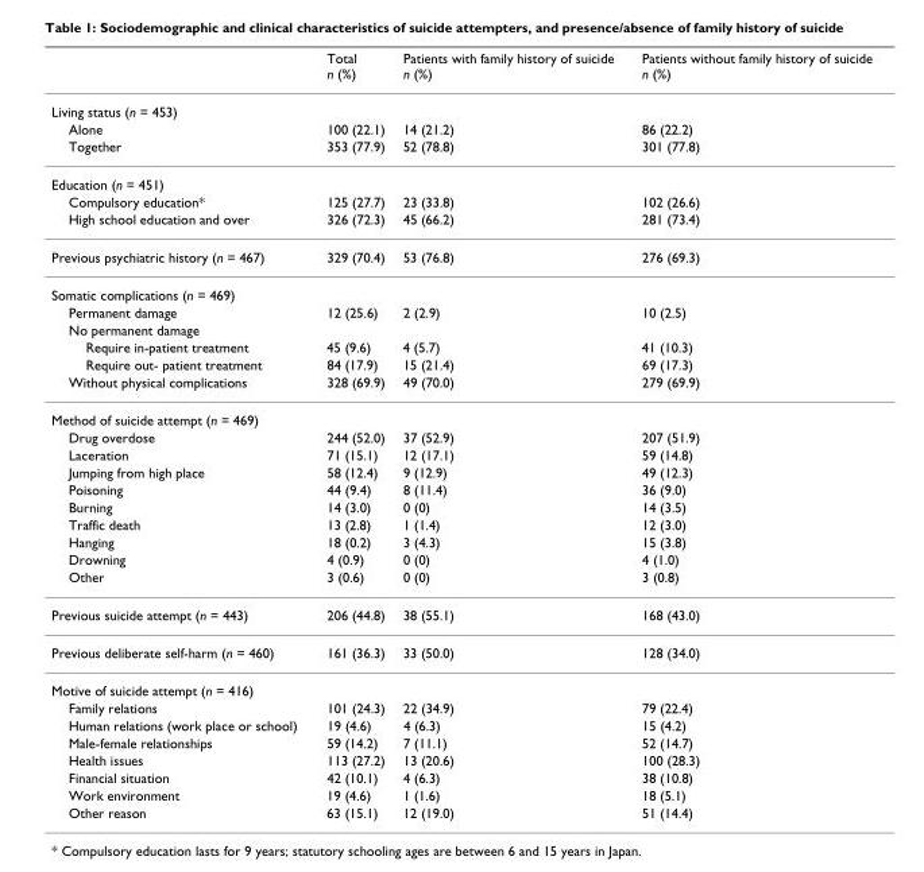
<table><thead><tr><td></td><td>Total n (%)</td><td>Patients with family history of suicide n (%)</td><td>Patients without family history of suicide n (%)</td></tr></thead><tbody><tr><td colspan="4">Living status (n = 453)</td></tr><tr><td>Alone</td><td>100 (22.1)</td><td>14 (21.2)</td><td>86 (22.2)</td></tr><tr><td>Together</td><td>353 (77.9)</td><td>52 (78.8)</td><td>301 (77.8)</td></tr><tr><td colspan="4">Education (n = 451)</td></tr><tr><td>Compulsory education*</td><td>125 (27.7)</td><td>23 (33.8)</td><td>102 (26.6)</td></tr><tr><td>High school education and over</td><td>326 (72.3)</td><td>45 (66.2)</td><td>281 (73.4)</td></tr><tr><td>Previous psychiatric history (n = 467)</td><td>329 (70.4)</td><td>53 (76.8)</td><td>276 (69.3)</td></tr><tr><td colspan="4">Somatic complications (n = 469)</td></tr><tr><td>Permanent damage</td><td>12 (25.6)</td><td>2 (2.9)</td><td>10 (2.5)</td></tr><tr><td colspan="4">No permanent damage</td></tr><tr><td>Require in-patient treatment</td><td>45 (9.6)</td><td>4 (5.7)</td><td>41 (10.3)</td></tr><tr><td>Require out- patient treatment</td><td>84 (17.9)</td><td>15 (21.4)</td><td>69 (17.3)</td></tr><tr><td>Without physical complications</td><td>328 (69.9)</td><td>49 (70.0)</td><td>279 (69.9)</td></tr><tr><td colspan="4">Method of suicide attempt (n = 469)</td></tr><tr><td>Drug overdose</td><td>244 (52.0)</td><td>37 (52.9)</td><td>207 (51.9)</td></tr><tr><td>Laceration</td><td>71 (15.1)</td><td>12 (17.1)</td><td>59 (14.8)</td></tr><tr><td>Jumping from high place</td><td>58 (12.4)</td><td>9 (12.9)</td><td>49 (12.3)</td></tr><tr><td>Poisoning</td><td>44 (9.4)</td><td>8 (11.4)</td><td>36 (9.0)</td></tr><tr><td>Burning</td><td>14 (3.0)</td><td>0 (0)</td><td>14 (3.5)</td></tr><tr><td>Traffic death</td><td>13 (2.8)</td><td>1 (1.4)</td><td>12 (3.0)</td></tr><tr><td>Hanging</td><td>18 (0.2)</td><td>3 (4.3)</td><td>15 (3.8)</td></tr><tr><td>Drowning</td><td>4 (0.9)</td><td>0 (0)</td><td>4 (1.0)</td></tr><tr><td>Other</td><td>3 (0.6)</td><td>0 (0)</td><td>3 (0.8)</td></tr><tr><td>Previous suicide attempt (n = 443)</td><td>206 (44.8)</td><td>38 (55.1)</td><td>168 (43.0)</td></tr><tr><td>Previous deliberate self-harm (n = 460)</td><td>161 (36.3)</td><td>33 (50.0)</td><td>128 (34.0)</td></tr><tr><td colspan="4">Motive of suicide attempt (n = 416)</td></tr><tr><td>Family relations</td><td>101 (24.3)</td><td>22 (34.9)</td><td>79 (22.4)</td></tr><tr><td>Human relations (work place or school)</td><td>19 (4.6)</td><td>4 (6.3)</td><td>15 (4.2)</td></tr><tr><td>Male-female relationships</td><td>59 (14.2)</td><td>7 (11.1)</td><td>52 (14.7)</td></tr><tr><td>Health issues</td><td>113 (27.2)</td><td>13 (20.6)</td><td>100 (28.3)</td></tr><tr><td>Financial situation</td><td>42 (10.1)</td><td>4 (6.3)</td><td>38 (10.8)</td></tr><tr><td>Work environment</td><td>19 (4.6)</td><td>1 (1.6)</td><td>18 (5.1)</td></tr><tr><td>Other reason</td><td>63 (15.1)</td><td>12 (19.0)</td><td>51 (14.4)</td></tr></tbody></table>